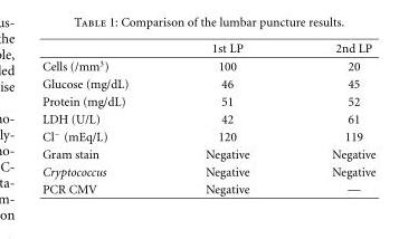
<table><thead><tr><td></td><td>1st LP</td><td>2nd LP</td></tr></thead><tbody><tr><td>Cells (/mm<sup>3</sup>)</td><td>100</td><td>20</td></tr><tr><td>Glucose (mg/dL)</td><td>46</td><td>45</td></tr><tr><td>Protein (mg/dL)</td><td>51</td><td>52</td></tr><tr><td>LDH (U/L)</td><td>42</td><td>61</td></tr><tr><td>Cl<sup>−</sup> (mEq/L)</td><td>120</td><td>119</td></tr><tr><td>Gram stain</td><td>Negative</td><td>Negative</td></tr><tr><td>Cryptococcus</td><td>Negative</td><td>Negative</td></tr><tr><td>PCR CMV</td><td>Negative</td><td>—</td></tr></tbody></table>